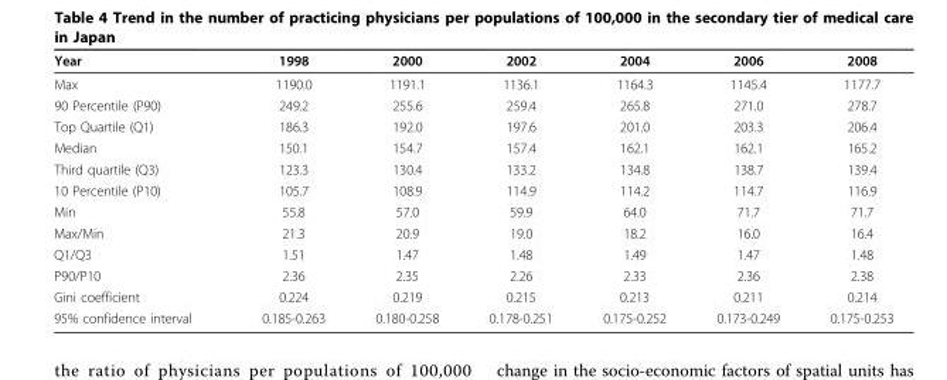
<table><thead><tr><td>Year</td><td>1998</td><td>2000</td><td>2002</td><td>2004</td><td>2006</td><td>2008</td></tr></thead><tbody><tr><td>Max</td><td>1190.0</td><td>1191.1</td><td>1136.1</td><td>1164.3</td><td>1145.4</td><td>1177.7</td></tr><tr><td>90 Percentile (P90)</td><td>249.2</td><td>255.6</td><td>259.4</td><td>265.8</td><td>271.0</td><td>278.7</td></tr><tr><td>Top Quartile (Q1)</td><td>186.3</td><td>192.0</td><td>197.6</td><td>201.0</td><td>203.3</td><td>206.4</td></tr><tr><td>Median</td><td>150.1</td><td>154.7</td><td>157.4</td><td>162.1</td><td>162.1</td><td>165.2</td></tr><tr><td>Third quartile (Q3)</td><td>123.3</td><td>130.4</td><td>133.2</td><td>134.8</td><td>138.7</td><td>139.4</td></tr><tr><td>10 Percentile (P10)</td><td>105.7</td><td>108.9</td><td>114.9</td><td>114.2</td><td>114.7</td><td>116.9</td></tr><tr><td>Min</td><td>55.8</td><td>57.0</td><td>59.9</td><td>64.0</td><td>71.7</td><td>71.7</td></tr><tr><td>Max/Min</td><td>21.3</td><td>20.9</td><td>19.0</td><td>18.2</td><td>16.0</td><td>16.4</td></tr><tr><td>Q1/Q3</td><td>1.51</td><td>1.47</td><td>1.48</td><td>1.49</td><td>1.47</td><td>1.48</td></tr><tr><td>P90/P10</td><td>2.36</td><td>2.35</td><td>2.26</td><td>2.33</td><td>2.36</td><td>2.38</td></tr><tr><td>Gini coefficient</td><td>0.224</td><td>0.219</td><td>0.215</td><td>0.213</td><td>0.211</td><td>0.214</td></tr><tr><td>95% confidence interval</td><td>0.185-0.263</td><td>0.180-0.258</td><td>0.178-0.251</td><td>0.175-0.252</td><td>0.173-0.249</td><td>0.175-0.253</td></tr></tbody></table>